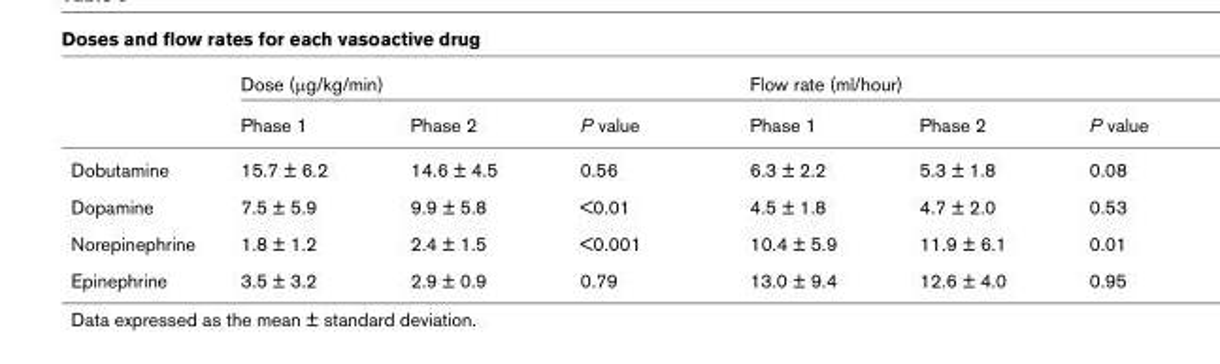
<table><thead><tr><td rowspan="2"></td><td colspan="3">Dose (μg/kg/min)</td><td colspan="3">Flow rate (ml/hour)</td></tr><tr><td>Phase 1</td><td>Phase 2</td><td>P value</td><td>Phase 1</td><td>Phase 2</td><td>P value</td></tr></thead><tbody><tr><td>Dobutamine</td><td>15.7 ± 6.2</td><td>14.6 ± 4.5</td><td>0.56</td><td>6.3 ± 2.2</td><td>5.3 ± 1.8</td><td>0.08</td></tr><tr><td>Dopamine</td><td>7.5 ± 5.9</td><td>9.9 ± 5.8</td><td>&lt;0.01</td><td>4.5 ± 1.8</td><td>4.7 ± 2.0</td><td>0.53</td></tr><tr><td>Norepinephrine</td><td>1.8 ± 1.2</td><td>2.4 ± 1.5</td><td>&lt;0.001</td><td>10.4 ± 5.9</td><td>11.9 ± 6.1</td><td>0.01</td></tr><tr><td>Epinephrine</td><td>3.5 ± 3.2</td><td>2.9 ± 0.9</td><td>0.79</td><td>13.0 ± 9.4</td><td>12.6 ± 4.0</td><td>0.95</td></tr></tbody></table>